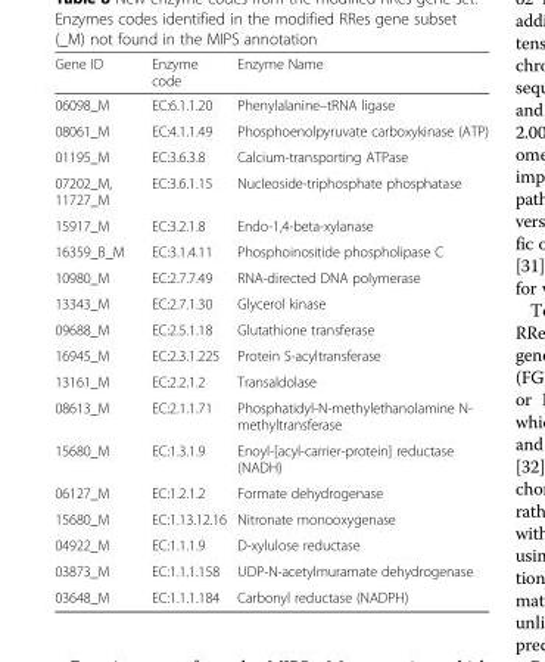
<table><thead><tr><td>Gene ID</td><td>Enzyme code</td><td>Enzyme Name</td></tr></thead><tbody><tr><td>06098_M</td><td>EC:6.1.1.20</td><td>Phenylalanine–tRNA ligase</td></tr><tr><td>08061_M</td><td>EC:4.1.1.49</td><td>Phosphoenolpyruvate carboxykinase (ATP)</td></tr><tr><td>01195_M</td><td>EC:3.6.3.8</td><td>Calcium-transporting ATPase</td></tr><tr><td>07202_M, 11727_M</td><td>EC:3.6.1.15</td><td>Nucleoside-triphosphate phosphatase</td></tr><tr><td>15917_M</td><td>EC:3.2.1.8</td><td>Endo-1,4-beta-xylanase</td></tr><tr><td>16359_B_M</td><td>EC:3.1.4.11</td><td>Phosphoinositide phospholipase C</td></tr><tr><td>10980_M</td><td>EC:2.7.7.49</td><td>RNA-directed DNA polymerase</td></tr><tr><td>13343_M</td><td>EC:2.7.1.30</td><td>Glycerol kinase</td></tr><tr><td>09688_M</td><td>EC:2.5.1.18</td><td>Glutathione transferase</td></tr><tr><td>16945_M</td><td>EC:2.3.1.225</td><td>Protein S-acyltransferase</td></tr><tr><td>13161_M</td><td>EC:2.2.1.2</td><td>Transaldolase</td></tr><tr><td>08613_M</td><td>EC:2.1.1.71</td><td>Phosphatidyl-N-methylethanolamine N- methyltransferase</td></tr><tr><td>15680_M</td><td>EC:1.3.1.9</td><td>Enoyl-[acyl-carrier-protein] reductase (NADH)</td></tr><tr><td>06127_M</td><td>EC:1.2.1.2</td><td>Formate dehydrogenase</td></tr><tr><td>15680_M</td><td>EC:1.13.12.16</td><td>Nitronate monooxygenase</td></tr><tr><td>04922_M</td><td>EC:1.1.1.9</td><td>D-xylulose reductase</td></tr><tr><td>03873_M</td><td>EC:1.1.1.158</td><td>UDP-N-acetylmuramate dehydrogenase</td></tr><tr><td>03648_M</td><td>EC:1.1.1.184</td><td>Carbonyl reductase (NADPH)</td></tr></tbody></table>